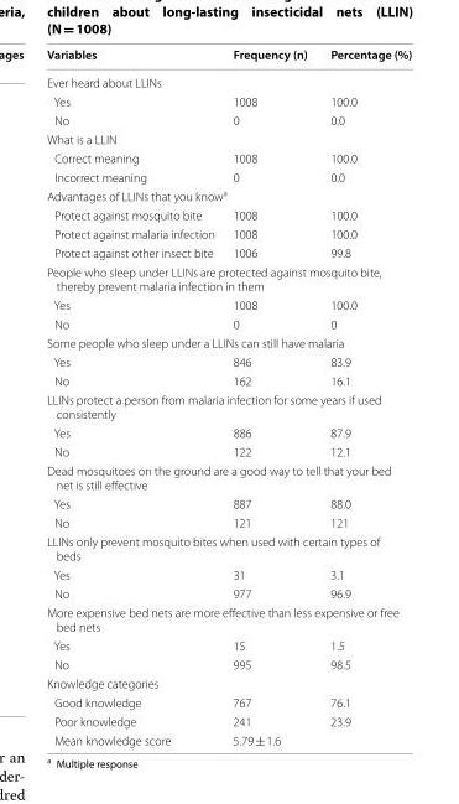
<table><thead><tr><td>Variables</td><td>Frequency (n)</td><td>Percentage (%)</td></tr></thead><tbody><tr><td colspan="3">Ever heard about LLINs</td></tr><tr><td>Yes</td><td>1008</td><td>100.0</td></tr><tr><td>No</td><td>0</td><td>0.0</td></tr><tr><td colspan="3">What is a LLIN</td></tr><tr><td>Correct meaning</td><td>1008</td><td>100.0</td></tr><tr><td>Incorrect meaning</td><td>0</td><td>0.0</td></tr><tr><td colspan="3">Advantages of LLINs that you know<sup>a</sup></td></tr><tr><td>Protect against mosquito bite</td><td>1008</td><td>100.0</td></tr><tr><td>Protect against malaria infection</td><td>1008</td><td>100.0</td></tr><tr><td>Protect against other insect bite</td><td>1006</td><td>99.8</td></tr><tr><td colspan="3">People who sleep under LLINs are protected against mosquito bite, thereby prevent malaria infection in them</td></tr><tr><td>Yes</td><td>1008</td><td>100.0</td></tr><tr><td>No</td><td>0</td><td>0</td></tr><tr><td colspan="3">Some people who sleep under a LLINs can still have malaria</td></tr><tr><td>Yes</td><td>846</td><td>83.9</td></tr><tr><td>No</td><td>162</td><td>16.1</td></tr><tr><td colspan="3">LLINs protect a person from malaria infection for some years if used consistently</td></tr><tr><td>Yes</td><td>886</td><td>87.9</td></tr><tr><td>No</td><td>122</td><td>12.1</td></tr><tr><td colspan="3">Dead mosquitoes on the ground are a good way to tell that your bed net is still effective</td></tr><tr><td>Yes</td><td>887</td><td>88.0</td></tr><tr><td>No</td><td>121</td><td>121</td></tr><tr><td colspan="3">LLINs only prevent mosquito bites when used with certain types of beds</td></tr><tr><td>Yes</td><td>31</td><td>3.1</td></tr><tr><td>No</td><td>977</td><td>96.9</td></tr><tr><td colspan="3">More expensive bed nets are more effective than less expensive or free bed nets</td></tr><tr><td>Yes</td><td>15</td><td>1.5</td></tr><tr><td>No</td><td>995</td><td>98.5</td></tr><tr><td colspan="3">Knowledge categories</td></tr><tr><td>Good knowledge</td><td>767</td><td>76.1</td></tr><tr><td>Poor knowledge</td><td>241</td><td>23.9</td></tr><tr><td>Mean knowledge score</td><td>5.79 ± 1.6</td><td></td></tr></tbody></table>